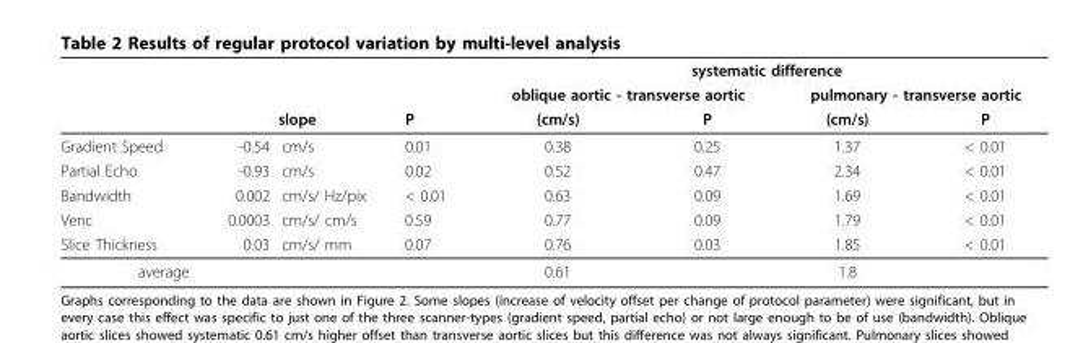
<table><thead><tr><td rowspan="3"></td><td rowspan="2"></td><td rowspan="2"></td><td rowspan="3">P</td><td colspan="4">systematic difference</td></tr><tr><td colspan="2">oblique aortic - transverse aortic</td><td colspan="2">pulmonary - transverse aortic</td></tr><tr><td colspan="2">slope</td><td>(cm/s)</td><td>P</td><td>(cm/s)</td><td>P</td></tr></thead><tbody><tr><td>Gradient Speed</td><td>-0.54</td><td>cm/s</td><td>0.01</td><td>0.38</td><td>0.25</td><td>1.37</td><td>&lt; 0.01</td></tr><tr><td>Partial Echo</td><td>-0.93</td><td>cm/s</td><td>0.02</td><td>0.52</td><td>0.47</td><td>2.34</td><td>&lt; 0.01</td></tr><tr><td>Bandwidth</td><td>0.002</td><td>cm/s/ Hz/pix</td><td>&lt; 0.01</td><td>0.63</td><td>0.09</td><td>1.69</td><td>&lt; 0.01</td></tr><tr><td>Venc</td><td>0.0003</td><td>cm/s/ cm/s</td><td>0.59</td><td>0.77</td><td>0.09</td><td>1.79</td><td>&lt; 0.01</td></tr><tr><td>Slice Thickness</td><td>0.03</td><td>cm/s/ mm</td><td>0.07</td><td>0.76</td><td>0.03</td><td>1.85</td><td>&lt; 0.01</td></tr><tr><td>average</td><td></td><td></td><td></td><td>0.61</td><td></td><td>1.8</td><td></td></tr></tbody></table>